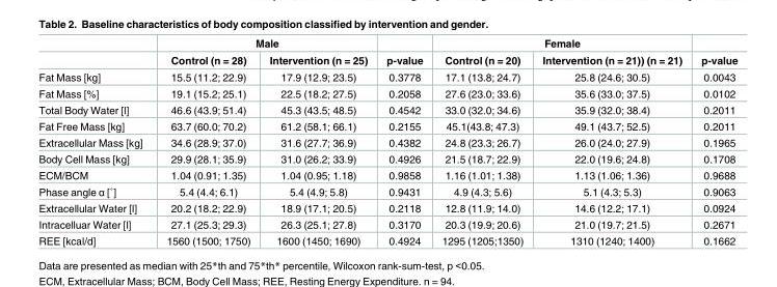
<table><thead><tr><td rowspan="2"></td><td colspan="2">Male</td><td rowspan="2">p-value</td><td colspan="2">Female</td><td rowspan="2">p-value</td></tr><tr><td>Control (n = 28)</td><td>Intervention (n = 25)</td><td>Control (n = 20)</td><td>Intervention (n = 21)) (n = 21)</td></tr></thead><tbody><tr><td>Fat Mass [kg]</td><td>15.5 (11.2; 22.9)</td><td>17.9 (12.9; 23.5)</td><td>0.3778</td><td>17.1 (13.8; 24.7)</td><td>25.8 (24.6; 30.5)</td><td>0.0043</td></tr><tr><td>Fat Mass [%]</td><td>19.1 (15.2; 25.1)</td><td>22.5 (18.2; 27.5)</td><td>0.2058</td><td>27.6 (23.0; 33.6)</td><td>35.6 (33.0; 37.5)</td><td>0.0102</td></tr><tr><td>Total Body Water [l]</td><td>46.6 (43.9; 51.4)</td><td>45.3 (43.5; 48.5)</td><td>0.4542</td><td>33.0 (32.0; 34.6)</td><td>35.9 (32.0; 38.4)</td><td>0.2011</td></tr><tr><td>Fat Free Mass [kg]</td><td>63.7 (60.0; 70.2)</td><td>61.2 (58.1; 66.1)</td><td>0.2155</td><td>45.1(43.8; 47.3)</td><td>49.1 (43.7; 52.5)</td><td>0.2011</td></tr><tr><td>Extracellular Mass [kg]</td><td>34.6 (28.9; 37.0)</td><td>31.6 (27.7; 36.9)</td><td>0.4382</td><td>24.8 (23.3; 26.7)</td><td>26.0 (24.0; 27.9)</td><td>0.1965</td></tr><tr><td>Body Cell Mass [kg]</td><td>29.9 (28.1; 35.9)</td><td>31.0 (26.2; 33.9)</td><td>0.4926</td><td>21.5 (18.7; 22.9)</td><td>22.0 (19.6; 24.8)</td><td>0.1708</td></tr><tr><td>ECM/BCM</td><td>1.04 (0.91; 1.35)</td><td>1.04 (0.95; 1.18)</td><td>0.9858</td><td>1.16 (1.01; 1.38)</td><td>1.13 (1.06; 1.36)</td><td>0.9688</td></tr><tr><td>Phase angle α [˚]</td><td>5.4 (4.4; 6.1)</td><td>5.4 (4.9; 5.8)</td><td>0.9431</td><td>4.9 (4.3; 5.6)</td><td>5.1 (4.3; 5.3)</td><td>0.9063</td></tr><tr><td>Extracellular Water [l]</td><td>20.2 (18.2; 22.9)</td><td>18.9 (17.1; 20.5)</td><td>0.2118</td><td>12.8 (11.9; 14.0)</td><td>14.6 (12.2; 17.1)</td><td>0.0924</td></tr><tr><td>Intracelluar Water [l]</td><td>27.1 (25.3; 29.3)</td><td>26.3 (25.1; 27.8)</td><td>0.3170</td><td>20.3 (19.9; 20.6)</td><td>21.0 (19.7; 21.5)</td><td>0.2671</td></tr><tr><td>REE [kcal/d]</td><td>1560 (1500; 1750)</td><td>1600 (1450; 1690)</td><td>0.4924</td><td>1295 (1205;1350)</td><td>1310 (1240; 1400)</td><td>0.1662</td></tr></tbody></table>